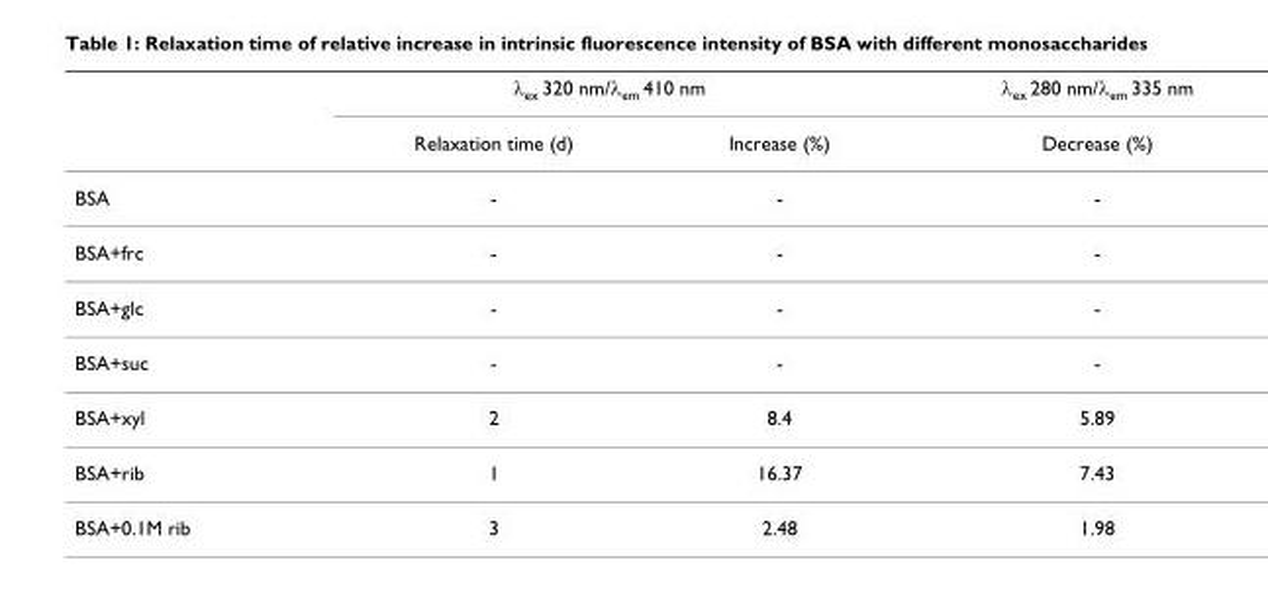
<table><thead><tr><td rowspan="2"></td><td colspan="2">λ<sub>ex</sub> 320 nm/λ<sub>em</sub> 410 nm</td><td rowspan="2">λ<sub>ex</sub> 280 nm/λ<sub>em</sub> 335 nm Decrease (%)</td></tr><tr><td>Relaxation time (d)</td><td>Increase (%)</td></tr></thead><tbody><tr><td>BSA</td><td>-</td><td>-</td><td>-</td></tr><tr><td>BSA+frc</td><td>-</td><td>-</td><td>-</td></tr><tr><td>BSA+glc</td><td>-</td><td>-</td><td>-</td></tr><tr><td>BSA+suc</td><td>-</td><td>-</td><td>-</td></tr><tr><td>BSA+xyl</td><td>2</td><td>8.4</td><td>5.89</td></tr><tr><td>BSA+rib</td><td>1</td><td>16.37</td><td>7.43</td></tr><tr><td>BSA+0.1M rib</td><td>3</td><td>2.48</td><td>1.98</td></tr></tbody></table>